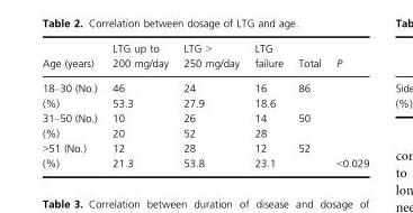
<table><thead><tr><td>Age (years)</td><td>LTG up to 200 mg/day</td><td>LTG &gt; 250 mg/day</td><td>LTG failure</td><td>Total</td><td>P</td></tr></thead><tbody><tr><td>18–30 (No.)</td><td>46</td><td>24</td><td>16</td><td>86</td><td></td></tr><tr><td>(%)</td><td>53.3</td><td>27.9</td><td>18.6</td><td></td><td></td></tr><tr><td>31–50 (No.)</td><td>10</td><td>26</td><td>14</td><td>50</td><td></td></tr><tr><td>(%)</td><td>20</td><td>52</td><td>28</td><td></td><td></td></tr><tr><td>&gt;51 (No.)</td><td>12</td><td>28</td><td>12</td><td>52</td><td></td></tr><tr><td>(%)</td><td>21.3</td><td>53.8</td><td>23.1</td><td></td><td>&lt;0.029</td></tr></tbody></table>